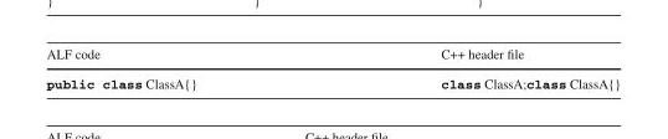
<table><thead><tr><td>ALF code</td><td>C++ header file</td></tr></thead><tbody><tr><td>public class ClassA{}</td><td>class ClassA;class ClassA{}</td></tr></tbody></table>